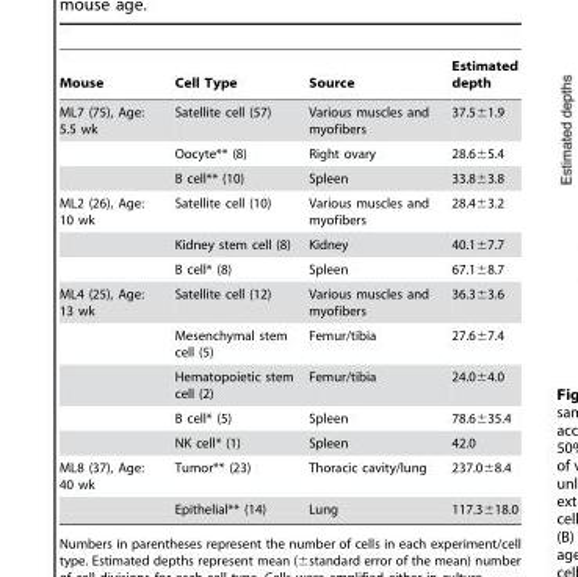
<table><thead><tr><td>Mouse</td><td>Cell Type</td><td>Source</td><td>Estimated depth</td></tr></thead><tbody><tr><td rowspan="3">ML7 (75), Age: 5.5 wk</td><td>Satellite cell (57)</td><td>Various muscles and myofibers</td><td>37.5±1.9</td></tr><tr><td>Oocyte** (8)</td><td>Right ovary</td><td>28.6±5.4</td></tr><tr><td>B cell** (10)</td><td>Spleen</td><td>33.8±3.8</td></tr><tr><td rowspan="3">ML2 (26), Age: 10 wk</td><td>Satellite cell (10)</td><td>Various muscles and myofibers</td><td>28.4±3.2</td></tr><tr><td>Kidney stem cell (8)</td><td>Kidney</td><td>40.1±7.7</td></tr><tr><td>B cell* (8)</td><td>Spleen</td><td>67.1±8.7</td></tr><tr><td rowspan="5">ML4 (25), Age: 13 wk</td><td>Satellite cell (12)</td><td>Various muscles and myofibers</td><td>36.3±3.6</td></tr><tr><td>Mesenchymal stem cell (5)</td><td>Femur/tibia</td><td>27.6±7.4</td></tr><tr><td>Hematopoietic stem cell (2)</td><td>Femur/tibia</td><td>24.0±4.0</td></tr><tr><td>B cell* (5)</td><td>Spleen</td><td>78.6±35.4</td></tr><tr><td>NK cell* (1)</td><td>Spleen</td><td>42.0</td></tr><tr><td rowspan="2">ML8 (37), Age: 40 wk</td><td>Tumor** (23)</td><td>Thoracic cavity/lung</td><td>237.0±8.4</td></tr><tr><td>Epithelial** (14)</td><td>Lung</td><td>117.3±18.0</td></tr></tbody></table>